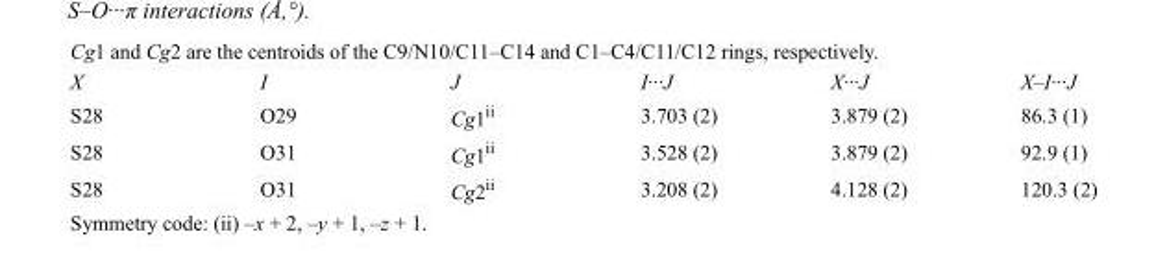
<table><tbody><tr><td>X</td><td>I</td><td>J</td><td>I···J</td><td>X···J</td><td>X–I···J</td></tr><tr><td>S28</td><td>O29</td><td>Cg1<sup>ii</sup></td><td>3.703 (2)</td><td>3.879 (2)</td><td>86.3 (1)</td></tr><tr><td>S28</td><td>O31</td><td>Cg1<sup>ii</sup></td><td>3.528 (2)</td><td>3.879 (2)</td><td>92.9 (1)</td></tr><tr><td>S28</td><td>O31</td><td>Cg2<sup>ii</sup></td><td>3.208 (2)</td><td>4.128 (2)</td><td>120.3 (2)</td></tr></tbody></table>